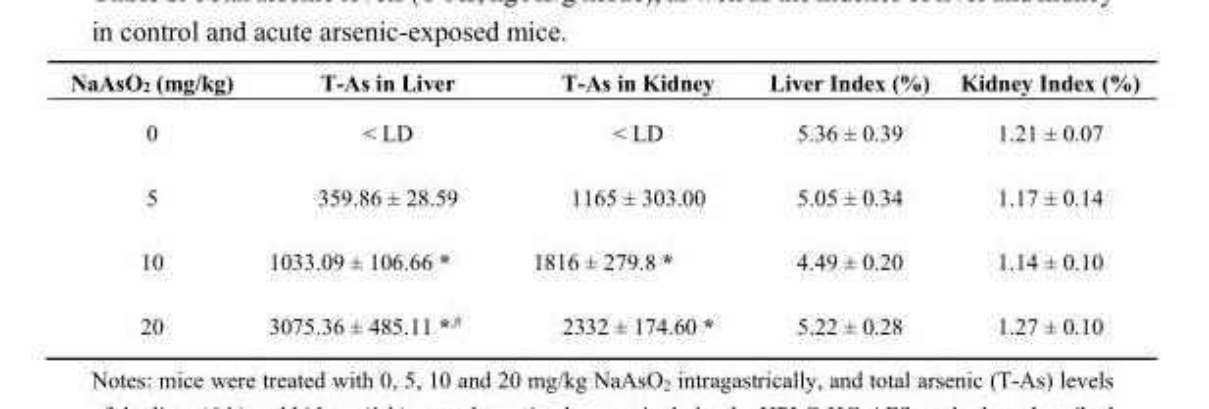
<table><thead><tr><td>NaAsO<sub>2</sub> (mg/kg)</td><td>T-As in Liver</td><td>T-As in Kidney</td><td>Liver Index (%)</td><td>Kidney Index (%)</td></tr></thead><tbody><tr><td>0</td><td>&lt; LD</td><td>&lt; LD</td><td>5.36 ± 0.39</td><td>1.21 ± 0.07</td></tr><tr><td>5</td><td>359.86 ± 28.59</td><td>1165 ± 303.00</td><td>5.05 ± 0.34</td><td>1.17 ± 0.14</td></tr><tr><td>10</td><td>1033.09 ± 106.66 *</td><td>1816 ± 279.8 *</td><td>4.49 ± 0.20</td><td>1.14 ± 0.10</td></tr><tr><td>20</td><td>3075.36 ± 485.11 *<sup>,#</sup></td><td>2332 ± 174.60 *</td><td>5.22 ± 0.28</td><td>1.27 ± 0.10</td></tr></tbody></table>